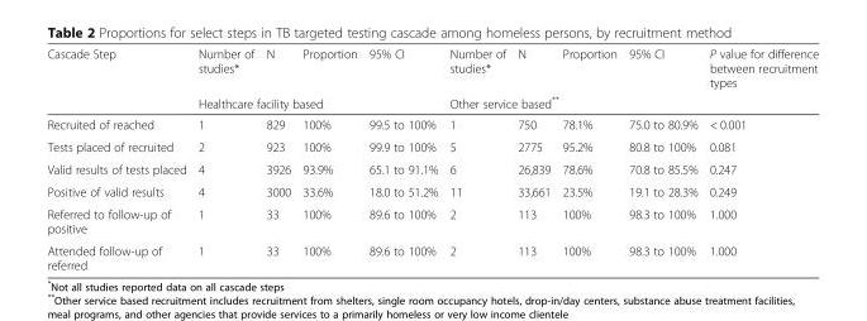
<table><thead><tr><td rowspan="2">Cascade Step</td><td>Number of studies*</td><td>N</td><td>Proportion</td><td>95% CI</td><td>Number of studies*</td><td>N</td><td>Proportion</td><td>95% CI</td><td rowspan="2">P value for difference between recruitment types</td></tr><tr><td colspan="4">Healthcare facility based</td><td colspan="4">Other service based**</td></tr></thead><tbody><tr><td>Recruited of reached</td><td>1</td><td>829</td><td>100%</td><td>99.5 to 100%</td><td>1</td><td>750</td><td>78.1%</td><td>75.0 to 80.9%</td><td>&lt; 0.001</td></tr><tr><td>Tests placed of recruited</td><td>2</td><td>923</td><td>100%</td><td>99.9 to 100%</td><td>5</td><td>2775</td><td>95.2%</td><td>80.8 to 100%</td><td>0.081</td></tr><tr><td>Valid results of tests placed</td><td>4</td><td>3926</td><td>93.9%</td><td>65.1 to 91.1%</td><td>6</td><td>26,839</td><td>78.6%</td><td>70.8 to 85.5%</td><td>0.247</td></tr><tr><td>Positive of valid results</td><td>4</td><td>3000</td><td>33.6%</td><td>18.0 to 51.2%</td><td>11</td><td>33,661</td><td>23.5%</td><td>19.1 to 28.3%</td><td>0.249</td></tr><tr><td>Referred to follow-up of positive</td><td>1</td><td>33</td><td>100%</td><td>89.6 to 100%</td><td>2</td><td>113</td><td>100%</td><td>98.3 to 100%</td><td>1.000</td></tr><tr><td>Attended follow-up of referred</td><td>1</td><td>33</td><td>100%</td><td>89.6 to 100%</td><td>2</td><td>113</td><td>100%</td><td>98.3 to 100%</td><td>1.000</td></tr></tbody></table>